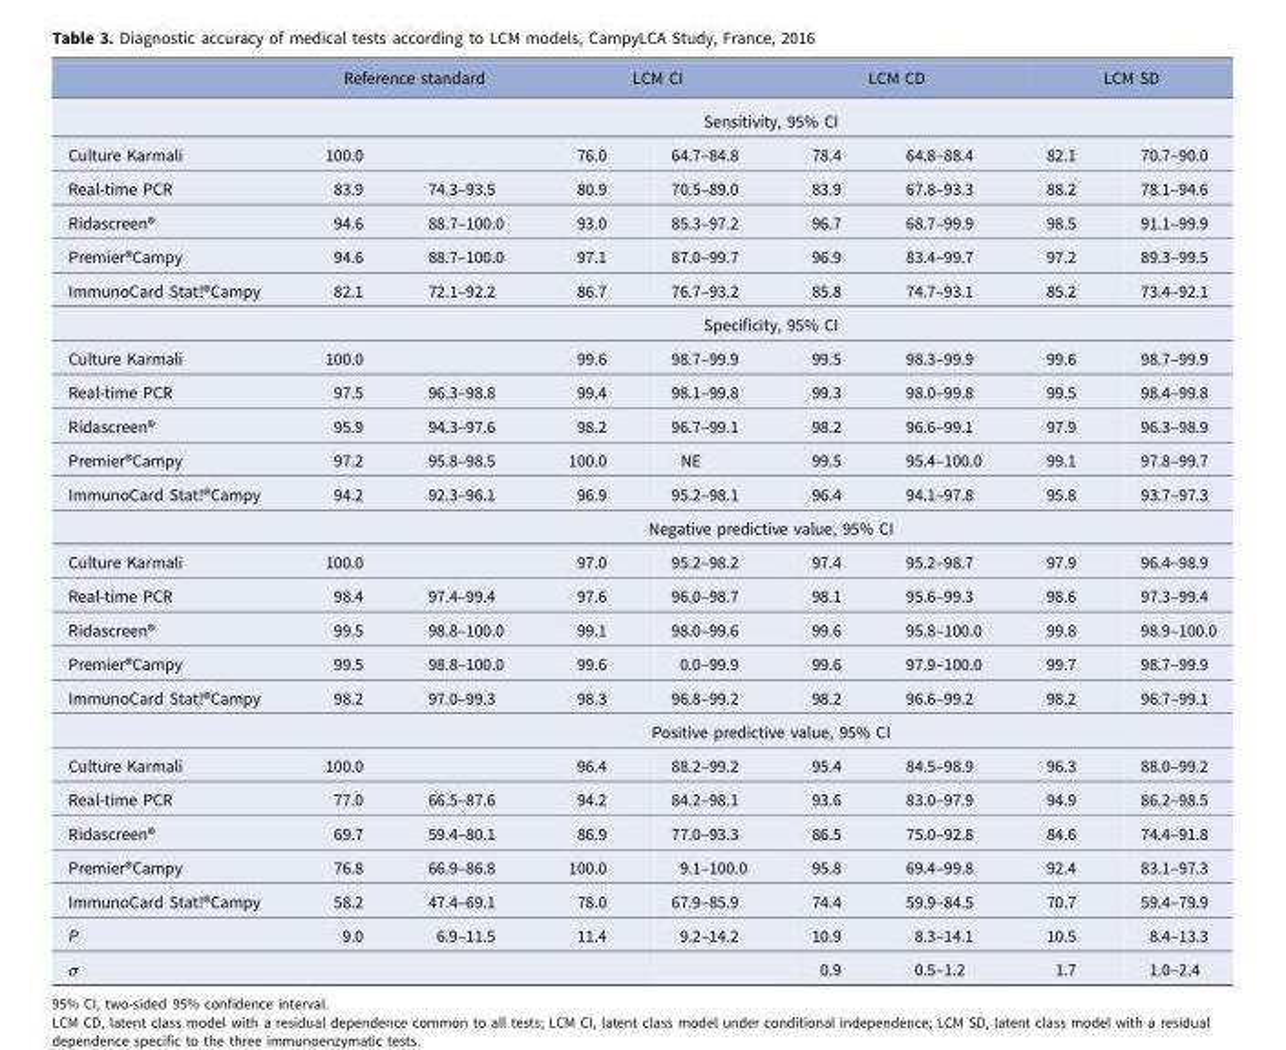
<table><thead><tr><td rowspan="3">Culture Karmali</td><td colspan="2">Reference standard</td><td colspan="2">LCM CI</td><td colspan="2">LCM CD</td><td colspan="2">LCM SD</td></tr><tr><td colspan="8">Sensitivity, 95% CI</td></tr><tr><td>100.0</td><td></td><td>76.0</td><td>64.7–84.8</td><td>78.4</td><td>64.8–88.4</td><td>82.1</td><td>70.7–90.0</td></tr></thead><tbody><tr><td>Real-time PCR</td><td>83.9</td><td>74.3–93.5</td><td>80.9</td><td>70.5–89.0</td><td>83.9</td><td>67.8–93.3</td><td>88.2</td><td>78.1–94.6</td></tr><tr><td>Ridascreen<sup>®</sup></td><td>94.6</td><td>88.7–100.0</td><td>93.0</td><td>85.3–97.2</td><td>96.7</td><td>68.7–99.9</td><td>98.5</td><td>91.1–99.9</td></tr><tr><td>Premier<sup>®</sup>Campy</td><td>94.6</td><td>88.7–100.0</td><td>97.1</td><td>87.0–99.7</td><td>96.9</td><td>83.4–99.7</td><td>97.2</td><td>89.3–99.5</td></tr><tr><td rowspan="2">ImmunoCard Stat!<sup>®</sup>Campy</td><td>82.1</td><td>72.1–92.2</td><td>86.7</td><td>76.7–93.2</td><td>85.8</td><td>74.7–93.1</td><td>85.2</td><td>73.4–92.1</td></tr><tr><td colspan="8">Specificity, 95% CI</td></tr><tr><td>Culture Karmali</td><td>100.0</td><td></td><td>99.6</td><td>98.7–99.9</td><td>99.5</td><td>98.3–99.9</td><td>99.6</td><td>98.7–99.9</td></tr><tr><td>Real-time PCR</td><td>97.5</td><td>96.3–98.8</td><td>99.4</td><td>98.1–99.8</td><td>99.3</td><td>98.0–99.8</td><td>99.5</td><td>98.4–99.8</td></tr><tr><td>Ridascreen<sup>®</sup></td><td>95.9</td><td>94.3–97.6</td><td>98.2</td><td>96.7–99.1</td><td>98.2</td><td>96.6–99.1</td><td>97.9</td><td>96.3–98.9</td></tr><tr><td>Premier<sup>®</sup>Campy</td><td>97.2</td><td>95.8–98.5</td><td>100.0</td><td>NE</td><td>99.5</td><td>95.4–100.0</td><td>99.1</td><td>97.8–99.7</td></tr><tr><td rowspan="2">ImmunoCard Stat!<sup>®</sup>Campy</td><td>94.2</td><td>92.3–96.1</td><td>96.9</td><td>95.2–98.1</td><td>96.4</td><td>94.1–97.8</td><td>95.8</td><td>93.7–97.3</td></tr><tr><td colspan="8">Negative predictive value, 95% CI</td></tr><tr><td>Culture Karmali</td><td>100.0</td><td></td><td>97.0</td><td>95.2–98.2</td><td>97.4</td><td>95.2–98.7</td><td>97.9</td><td>96.4–98.9</td></tr><tr><td>Real-time PCR</td><td>98.4</td><td>97.4–99.4</td><td>97.6</td><td>96.0–98.7</td><td>98.1</td><td>95.6–99.3</td><td>98.6</td><td>97.3–99.4</td></tr><tr><td>Ridascreen<sup>®</sup></td><td>99.5</td><td>98.8–100.0</td><td>99.1</td><td>98.0–99.6</td><td>99.6</td><td>95.8–100.0</td><td>99.8</td><td>98.9–100.0</td></tr><tr><td>Premier<sup>®</sup>Campy</td><td>99.5</td><td>98.8–100.0</td><td>99.6</td><td>0.0–99.9</td><td>99.6</td><td>97.9–100.0</td><td>99.7</td><td>98.7–99.9</td></tr><tr><td rowspan="2">ImmunoCard Stat!<sup>®</sup>Campy</td><td>98.2</td><td>97.0–99.3</td><td>98.3</td><td>96.8–99.2</td><td>98.2</td><td>96.6–99.2</td><td>98.2</td><td>96.7–99.1</td></tr><tr><td colspan="8">Positive predictive value, 95% CI</td></tr><tr><td>Culture Karmali</td><td>100.0</td><td></td><td>96.4</td><td>88.2–99.2</td><td>95.4</td><td>84.5–98.9</td><td>96.3</td><td>88.0–99.2</td></tr><tr><td>Real-time PCR</td><td>77.0</td><td>66.5–87.6</td><td>94.2</td><td>84.2–98.1</td><td>93.6</td><td>83.0–97.9</td><td>94.9</td><td>86.2–98.5</td></tr><tr><td>Ridascreen<sup>®</sup></td><td>69.7</td><td>59.4–80.1</td><td>86.9</td><td>77.0–93.3</td><td>86.5</td><td>75.0–92.8</td><td>84.6</td><td>74.4–91.8</td></tr><tr><td>Premier<sup>®</sup>Campy</td><td>76.8</td><td>66.9–86.8</td><td>100.0</td><td>9.1–100.0</td><td>95.8</td><td>69.4–99.8</td><td>92.4</td><td>83.1–97.3</td></tr><tr><td>ImmunoCard Stat!<sup>®</sup>Campy</td><td>58.2</td><td>47.4–69.1</td><td>78.0</td><td>67.9–85.9</td><td>74.4</td><td>59.9–84.5</td><td>70.7</td><td>59.4–79.9</td></tr><tr><td>P</td><td>9.0</td><td>6.9–11.5</td><td>11.4</td><td>9.2–14.2</td><td>10.9</td><td>8.3–14.1</td><td>10.5</td><td>8.4–13.3</td></tr><tr><td>σ</td><td></td><td></td><td></td><td></td><td>0.9</td><td>0.5–1.2</td><td>1.7</td><td>1.0–2.4</td></tr></tbody></table>